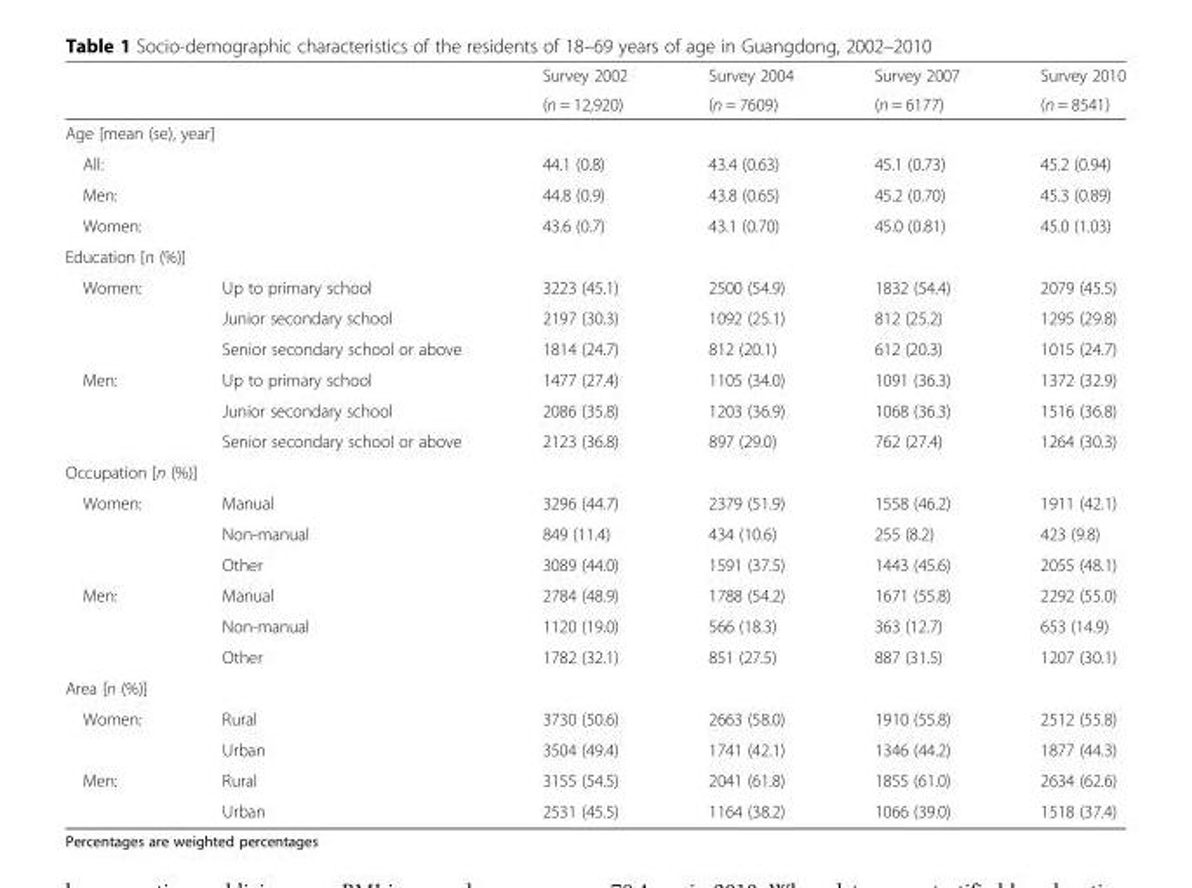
<table><thead><tr><td rowspan="2"></td><td rowspan="2"></td><td rowspan="2">Survey 2002 (n = 12,920)</td><td rowspan="2">Survey 2004 (n = 7609)</td><td rowspan="2">Survey 2007 (n = 6177)</td><td rowspan="2">Survey 2010 (n = 8541)</td></tr><tr></tr></thead><tbody><tr><td colspan="6">Age [mean (se), year]</td></tr><tr><td>All:</td><td></td><td>44.1 (0.8)</td><td>43.4 (0.63)</td><td>45.1 (0.73)</td><td>45.2 (0.94)</td></tr><tr><td>Men:</td><td></td><td>44.8 (0.9)</td><td>43.8 (0.65)</td><td>45.2 (0.70)</td><td>45.3 (0.89)</td></tr><tr><td>Women:</td><td></td><td>43.6 (0.7)</td><td>43.1 (0.70)</td><td>45.0 (0.81)</td><td>45.0 (1.03)</td></tr><tr><td colspan="6">Education [n (%)]</td></tr><tr><td rowspan="3">Women:</td><td>Up to primary school</td><td>3223 (45.1)</td><td>2500 (54.9)</td><td>1832 (54.4)</td><td>2079 (45.5)</td></tr><tr><td>Junior secondary school</td><td>2197 (30.3)</td><td>1092 (25.1)</td><td>812 (25.2)</td><td>1295 (29.8)</td></tr><tr><td>Senior secondary school or above</td><td>1814 (24.7)</td><td>812 (20.1)</td><td>612 (20.3)</td><td>1015 (24.7)</td></tr><tr><td rowspan="3">Men:</td><td>Up to primary school</td><td>1477 (27.4)</td><td>1105 (34.0)</td><td>1091 (36.3)</td><td>1372 (32.9)</td></tr><tr><td>Junior secondary school</td><td>2086 (35.8)</td><td>1203 (36.9)</td><td>1068 (36.3)</td><td>1516 (36.8)</td></tr><tr><td>Senior secondary school or above</td><td>2123 (36.8)</td><td>897 (29.0)</td><td>762 (27.4)</td><td>1264 (30.3)</td></tr><tr><td colspan="6">Occupation [n (%)]</td></tr><tr><td rowspan="3">Women:</td><td>Manual</td><td>3296 (44.7)</td><td>2379 (51.9)</td><td>1558 (46.2)</td><td>1911 (42.1)</td></tr><tr><td>Non-manual</td><td>849 (11.4)</td><td>434 (10.6)</td><td>255 (8.2)</td><td>423 (9.8)</td></tr><tr><td>Other</td><td>3089 (44.0)</td><td>1591 (37.5)</td><td>1443 (45.6)</td><td>2055 (48.1)</td></tr><tr><td rowspan="3">Men:</td><td>Manual</td><td>2784 (48.9)</td><td>1788 (54.2)</td><td>1671 (55.8)</td><td>2292 (55.0)</td></tr><tr><td>Non-manual</td><td>1120 (19.0)</td><td>566 (18.3)</td><td>363 (12.7)</td><td>653 (14.9)</td></tr><tr><td>Other</td><td>1782 (32.1)</td><td>851 (27.5)</td><td>887 (31.5)</td><td>1207 (30.1)</td></tr><tr><td colspan="6">Area [n (%)]</td></tr><tr><td rowspan="2">Women:</td><td>Rural</td><td>3730 (50.6)</td><td>2663 (58.0)</td><td>1910 (55.8)</td><td>2512 (55.8)</td></tr><tr><td>Urban</td><td>3504 (49.4)</td><td>1741 (42.1)</td><td>1346 (44.2)</td><td>1877 (44.3)</td></tr><tr><td rowspan="2">Men:</td><td>Rural</td><td>3155 (54.5)</td><td>2041 (61.8)</td><td>1855 (61.0)</td><td>2634 (62.6)</td></tr><tr><td>Urban</td><td>2531 (45.5)</td><td>1164 (38.2)</td><td>1066 (39.0)</td><td>1518 (37.4)</td></tr></tbody></table>